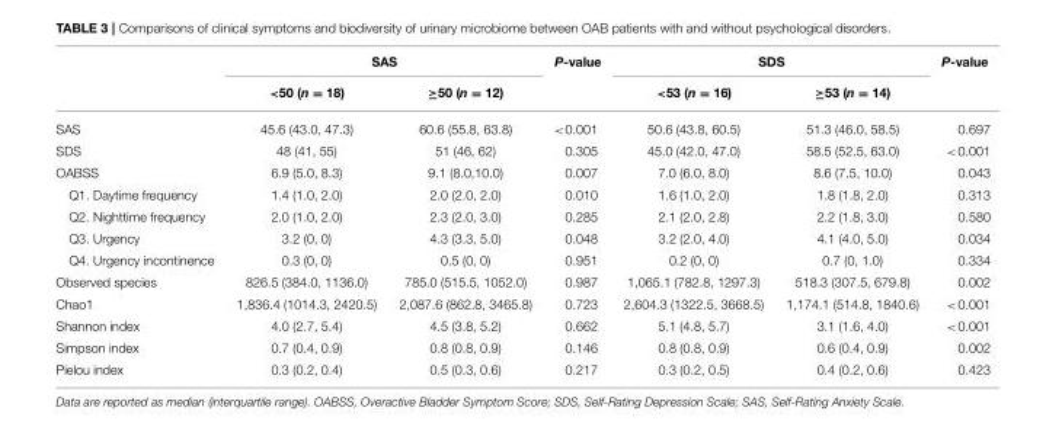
<table><thead><tr><td rowspan="2"></td><td colspan="2">SAS</td><td rowspan="2">P-value</td><td colspan="2">SDS</td><td rowspan="2">P-value</td></tr><tr><td>&lt;50 (n = 18)</td><td>≥50 (n = 12)</td><td>&lt;53 (n = 16)</td><td>≥53 (n = 14)</td></tr></thead><tbody><tr><td>SAS</td><td>45.6 (43.0, 47.3)</td><td>60.6 (55.8, 63.8)</td><td>&lt;0.001</td><td>50.6 (43.8, 60.5)</td><td>51.3 (46.0, 58.5)</td><td>0.697</td></tr><tr><td>SDS</td><td>48 (41, 55)</td><td>51 (46, 62)</td><td>0.305</td><td>45.0 (42.0, 47.0)</td><td>58.5 (52.5, 63.0)</td><td>&lt;0.001</td></tr><tr><td>OABSS</td><td>6.9 (5.0, 8.3)</td><td>9.1 (8.0,10.0)</td><td>0.007</td><td>7.0 (6.0, 8.0)</td><td>8.6 (7.5, 10.0)</td><td>0.043</td></tr><tr><td>Q1. Daytime frequency</td><td>1.4 (1.0, 2.0)</td><td>2.0 (2.0, 2.0)</td><td>0.010</td><td>1.6 (1.0, 2.0)</td><td>1.8 (1.8, 2.0)</td><td>0.313</td></tr><tr><td>Q2. Nighttime frequency</td><td>2.0 (1.0, 2.0)</td><td>2.3 (2.0, 3.0)</td><td>0.285</td><td>2.1 (2.0, 2.8)</td><td>2.2 (1.8, 3.0)</td><td>0.580</td></tr><tr><td>Q3. Urgency</td><td>3.2 (0, 0)</td><td>4.3 (3.3, 5.0)</td><td>0.048</td><td>3.2 (2.0, 4.0)</td><td>4.1 (4.0, 5.0)</td><td>0.034</td></tr><tr><td>Q4. Urgency incontinence</td><td>0.3 (0, 0)</td><td>0.5 (0, 0)</td><td>0.951</td><td>0.2 (0, 0)</td><td>0.7 (0, 1.0)</td><td>0.334</td></tr><tr><td>Observed species</td><td>826.5 (384.0, 1136.0)</td><td>785.0 (515.5, 1052.0)</td><td>0.987</td><td>1,065.1 (782.8, 1297.3)</td><td>518.3 (307.5, 679.8)</td><td>0.002</td></tr><tr><td>Chao1</td><td>1,836.4 (1014.3, 2420.5)</td><td>2,087.6 (862.8, 3465.8)</td><td>0.723</td><td>2,604.3 (1322.5, 3668.5)</td><td>1,174.1 (514.8, 1840.6)</td><td>&lt;0.001</td></tr><tr><td>Shannon index</td><td>4.0 (2.7, 5.4)</td><td>4.5 (3.8, 5.2)</td><td>0.662</td><td>5.1 (4.8, 5.7)</td><td>3.1 (1.6, 4.0)</td><td>&lt;0.001</td></tr><tr><td>Simpson index</td><td>0.7 (0.4, 0.9)</td><td>0.8 (0.8, 0.9)</td><td>0.146</td><td>0.8 (0.8, 0.9)</td><td>0.6 (0.4, 0.9)</td><td>0.002</td></tr><tr><td>Pielou index</td><td>0.3 (0.2, 0.4)</td><td>0.5 (0.3, 0.6)</td><td>0.217</td><td>0.3 (0.2, 0.5)</td><td>0.4 (0.2, 0.6)</td><td>0.423</td></tr></tbody></table>